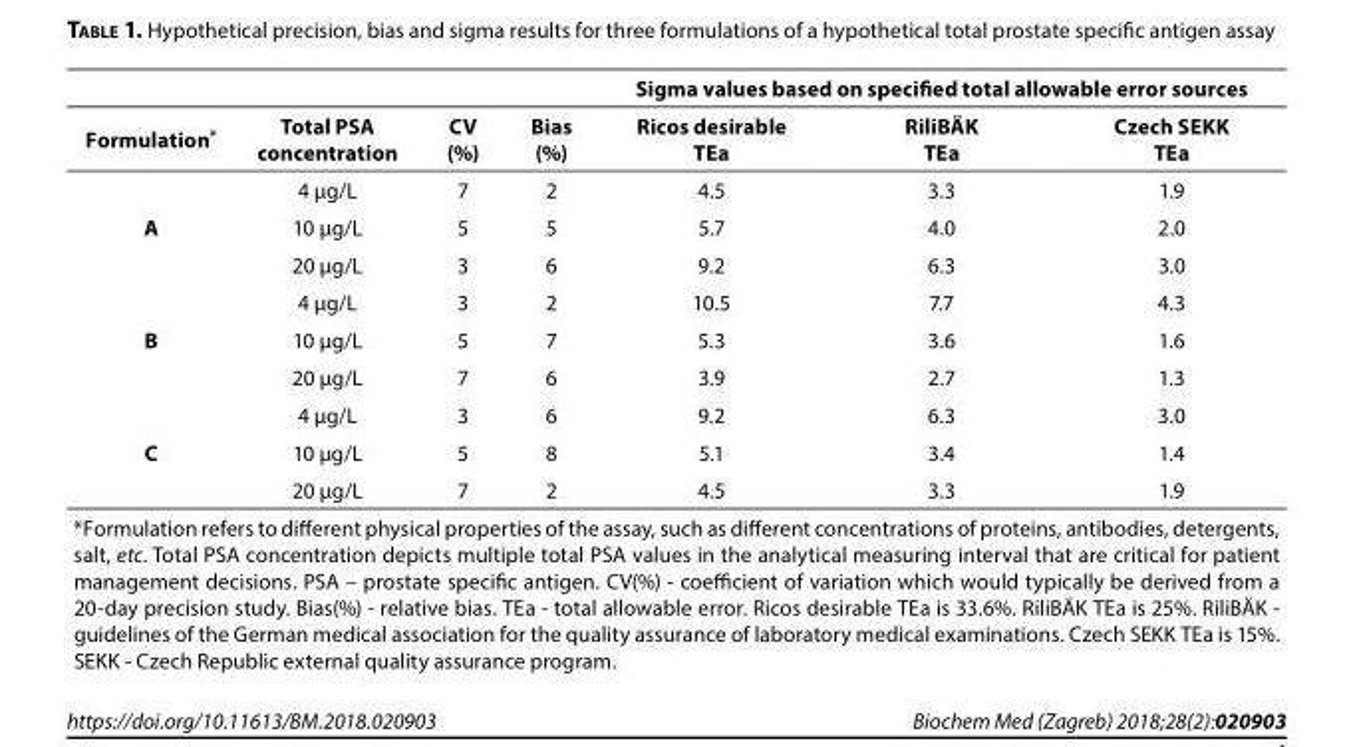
<table><thead><tr><td rowspan="2">Formulation*</td><td rowspan="2">Total PSA concentration</td><td rowspan="2">CV (%)</td><td rowspan="2">Bias (%)</td><td colspan="3">Sigma values based on specified total allowable error sources</td></tr><tr><td>Ricos desirable TEa</td><td>RiliBÄK TEa</td><td>Czech SEKK TEa</td></tr></thead><tbody><tr><td rowspan="3">A</td><td>4 µg/L</td><td>7</td><td>2</td><td>4.5</td><td>3.3</td><td>1.9</td></tr><tr><td>10 µg/L</td><td>5</td><td>5</td><td>5.7</td><td>4.0</td><td>2.0</td></tr><tr><td>20 µg/L</td><td>3</td><td>6</td><td>9.2</td><td>6.3</td><td>3.0</td></tr><tr><td rowspan="3">B</td><td>4 µg/L</td><td>3</td><td>2</td><td>10.5</td><td>7.7</td><td>4.3</td></tr><tr><td>10 µg/L</td><td>5</td><td>7</td><td>5.3</td><td>3.6</td><td>1.6</td></tr><tr><td>20 µg/L</td><td>7</td><td>6</td><td>3.9</td><td>2.7</td><td>1.3</td></tr><tr><td rowspan="3">C</td><td>4 µg/L</td><td>3</td><td>6</td><td>9.2</td><td>6.3</td><td>3.0</td></tr><tr><td>10 µg/L</td><td>5</td><td>8</td><td>5.1</td><td>3.4</td><td>1.4</td></tr><tr><td>20 µg/L</td><td>7</td><td>2</td><td>4.5</td><td>3.3</td><td>1.9</td></tr><tr><td colspan="7">*Formulation refers to different physical properties of the assay, such as different concentrations of proteins, antibodies, detergents, salt, etc. Total PSA concentration depicts multiple total PSA values in the analytical measuring interval that are critical for patient management decisions. PSA – prostate specific antigen. CV(%) - coefficient of variation which would typically be derived from a 20-day precision study. Bias(%) - relative bias. TEa - total allowable error. Ricos desirable TEa is 33.6%. RiliBÄK TEa is 25%. RiliBÄK - guidelines of the German medical association for the quality assurance of laboratory medical examinations. Czech SEKK TEa is 15%. SEKK - Czech Republic external quality assurance program.</td></tr></tbody></table>